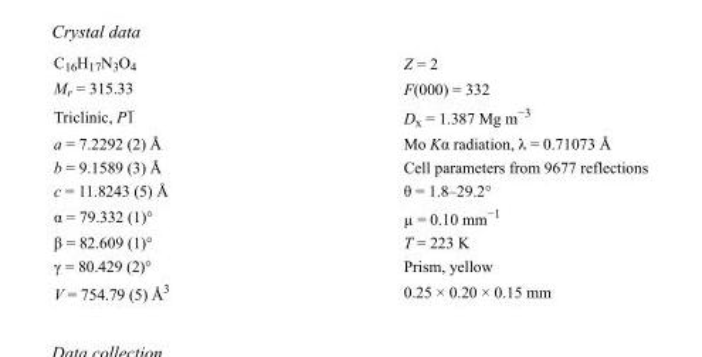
<table><tbody><tr><td>C<sub>16</sub>H<sub>17</sub>N<sub>3</sub>O<sub>4</sub></td><td>Z = 2</td></tr><tr><td>M<sub>r</sub> = 315.33</td><td>F(000) = 332</td></tr><tr><td>Triclinic, P1</td><td>D<sub>x</sub> = 1.387 Mg m<sup>−3</sup></td></tr><tr><td>a = 7.2292 (2) Å</td><td>Mo Kα radiation, λ = 0.71073 Å</td></tr><tr><td>b = 9.1589 (3) Å</td><td>Cell parameters from 9677 reflections</td></tr><tr><td>c = 11.8243 (5) Å</td><td>θ = 1.8–29.2°</td></tr><tr><td>α = 79.332 (1)°</td><td>µ = 0.10 mm<sup>−1</sup></td></tr><tr><td>β = 82.609 (1)°</td><td>T = 223 K</td></tr><tr><td>γ = 80.429 (2)°</td><td>Prism, yellow</td></tr><tr><td>V = 754.79 (5) Å<sup>3</sup></td><td>0.25 × 0.20 × 0.15 mm</td></tr></tbody></table>